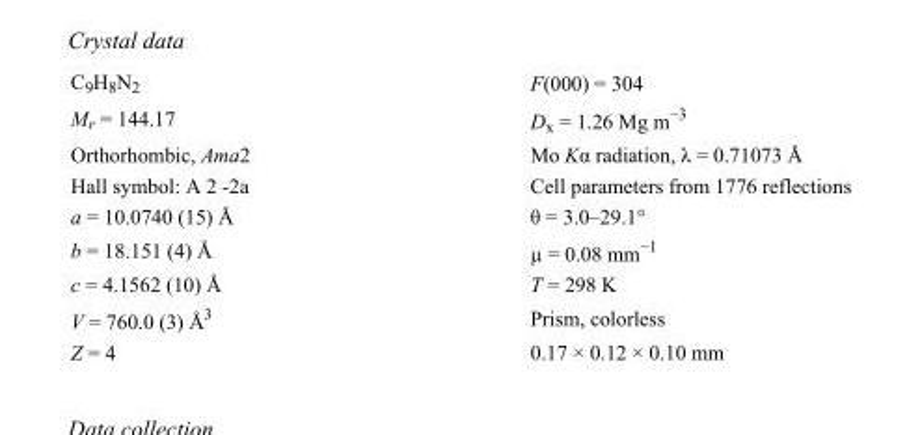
<table><tbody><tr><td>C<sub>9</sub>H<sub>8</sub>N<sub>2</sub></td><td>F(000) = 304</td></tr><tr><td>M<sub>r</sub> = 144.17</td><td>D<sub>x</sub> = 1.26 Mg m<sup>−3</sup></td></tr><tr><td>Orthorhombic, Ama2</td><td>Mo Kα radiation, λ = 0.71073 Å</td></tr><tr><td>Hall symbol: A 2 -2a</td><td>Cell parameters from 1776 reflections</td></tr><tr><td>a = 10.0740 (15) Å</td><td>θ = 3.0–29.1°</td></tr><tr><td>b = 18.151 (4) Å</td><td>µ = 0.08 mm<sup>−1</sup></td></tr><tr><td>c = 4.1562 (10) Å</td><td>T = 298 K</td></tr><tr><td>V = 760.0 (3) Å<sup>3</sup></td><td>Prism, colorless</td></tr><tr><td>Z = 4</td><td>0.17 × 0.12 × 0.10 mm</td></tr></tbody></table>